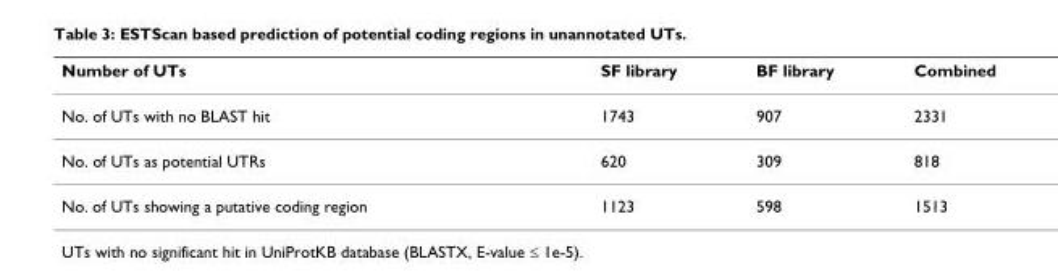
<table><thead><tr><td>Number of UTs</td><td>SF library</td><td>BF library</td><td>Combined</td></tr></thead><tbody><tr><td>No. of UTs with no BLAST hit</td><td>1743</td><td>907</td><td>2331</td></tr><tr><td>No. of UTs as potential UTRs</td><td>620</td><td>309</td><td>818</td></tr><tr><td>No. of UTs showing a putative coding region</td><td>1123</td><td>598</td><td>1513</td></tr></tbody></table>